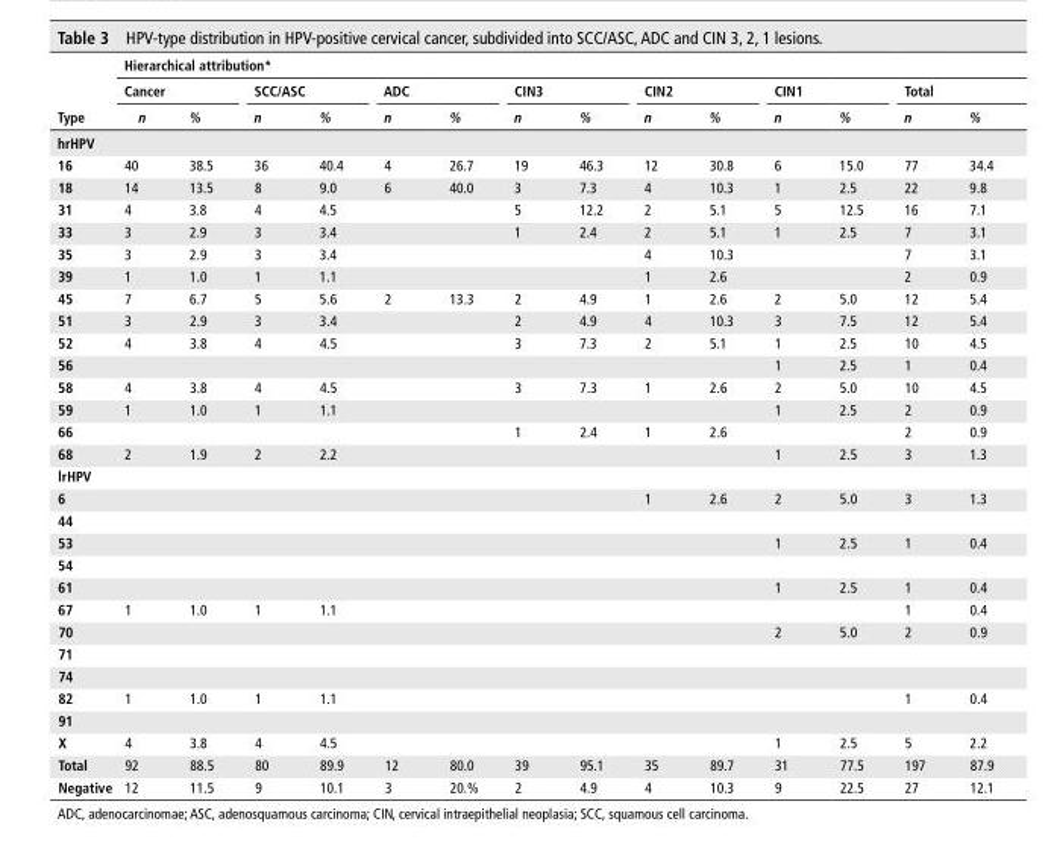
<table><thead><tr><td rowspan="3">Type</td><td colspan="14">hierarchical attribution*</td></tr><tr><td colspan="2">Cancer</td><td colspan="2">sCC/AsC</td><td colspan="2">AdC</td><td colspan="2">CIn3</td><td colspan="2">CIn2</td><td colspan="2">CIn1</td><td colspan="2">Total</td></tr><tr><td>n</td><td>%</td><td>n</td><td>%</td><td>n</td><td>%</td><td>n</td><td>%</td><td>n</td><td>%</td><td>n</td><td>%</td><td>n</td><td>%</td></tr></thead><tbody><tr><td colspan="15">hrhPV</td></tr><tr><td>16</td><td>40</td><td>38.5</td><td>36</td><td>40.4</td><td>4</td><td>26.7</td><td>19</td><td>46.3</td><td>12</td><td>30.8</td><td>6</td><td>15.0</td><td>77</td><td>34.4</td></tr><tr><td>18</td><td>14</td><td>13.5</td><td>8</td><td>9.0</td><td>6</td><td>40.0</td><td>3</td><td>7.3</td><td>4</td><td>10.3</td><td>1</td><td>2.5</td><td>22</td><td>9.8</td></tr><tr><td>31</td><td>4</td><td>3.8</td><td>4</td><td>4.5</td><td></td><td></td><td>5</td><td>12.2</td><td>2</td><td>5.1</td><td>5</td><td>12.5</td><td>16</td><td>7.1</td></tr><tr><td>33</td><td>3</td><td>2.9</td><td>3</td><td>3.4</td><td></td><td></td><td>1</td><td>2.4</td><td>2</td><td>5.1</td><td>1</td><td>2.5</td><td>7</td><td>3.1</td></tr><tr><td>35</td><td>3</td><td>2.9</td><td>3</td><td>3.4</td><td></td><td></td><td></td><td></td><td>4</td><td>10.3</td><td></td><td></td><td>7</td><td>3.1</td></tr><tr><td>39</td><td>1</td><td>1.0</td><td>1</td><td>1.1</td><td></td><td></td><td></td><td></td><td>1</td><td>2.6</td><td></td><td></td><td>2</td><td>0.9</td></tr><tr><td>45</td><td>7</td><td>6.7</td><td>5</td><td>5.6</td><td>2</td><td>13.3</td><td>2</td><td>4.9</td><td>1</td><td>2.6</td><td>2</td><td>5.0</td><td>12</td><td>5.4</td></tr><tr><td>51</td><td>3</td><td>2.9</td><td>3</td><td>3.4</td><td></td><td></td><td>2</td><td>4.9</td><td>4</td><td>10.3</td><td>3</td><td>7.5</td><td>12</td><td>5.4</td></tr><tr><td>52</td><td>4</td><td>3.8</td><td>4</td><td>4.5</td><td></td><td></td><td>3</td><td>7.3</td><td>2</td><td>5.1</td><td>1</td><td>2.5</td><td>10</td><td>4.5</td></tr><tr><td>56</td><td></td><td></td><td></td><td></td><td></td><td></td><td></td><td></td><td></td><td></td><td>1</td><td>2.5</td><td>1</td><td>0.4</td></tr><tr><td>58</td><td>4</td><td>3.8</td><td>4</td><td>4.5</td><td></td><td></td><td>3</td><td>7.3</td><td>1</td><td>2.6</td><td>2</td><td>5.0</td><td>10</td><td>4.5</td></tr><tr><td>59</td><td>1</td><td>1.0</td><td>1</td><td>1.1</td><td></td><td></td><td></td><td></td><td></td><td></td><td>1</td><td>2.5</td><td>2</td><td>0.9</td></tr><tr><td>66</td><td></td><td></td><td></td><td></td><td></td><td></td><td>1</td><td>2.4</td><td>1</td><td>2.6</td><td></td><td></td><td>2</td><td>0.9</td></tr><tr><td>68</td><td>2</td><td>1.9</td><td>2</td><td>2.2</td><td></td><td></td><td></td><td></td><td></td><td></td><td>1</td><td>2.5</td><td>3</td><td>1.3</td></tr><tr><td colspan="15">lrhPV</td></tr><tr><td>6</td><td></td><td></td><td></td><td></td><td></td><td></td><td></td><td></td><td>1</td><td>2.6</td><td>2</td><td>5.0</td><td>3</td><td>1.3</td></tr><tr><td colspan="15">44</td></tr><tr><td>53</td><td></td><td></td><td></td><td></td><td></td><td></td><td></td><td></td><td></td><td></td><td>1</td><td>2.5</td><td>1</td><td>0.4</td></tr><tr><td colspan="15">54</td></tr><tr><td>61</td><td></td><td></td><td></td><td></td><td></td><td></td><td></td><td></td><td></td><td></td><td>1</td><td>2.5</td><td>1</td><td>0.4</td></tr><tr><td>67</td><td>1</td><td>1.0</td><td>1</td><td>1.1</td><td></td><td></td><td></td><td></td><td></td><td></td><td></td><td></td><td>1</td><td>0.4</td></tr><tr><td>70</td><td></td><td></td><td></td><td></td><td></td><td></td><td></td><td></td><td></td><td></td><td>2</td><td>5.0</td><td>2</td><td>0.9</td></tr><tr><td colspan="15">71</td></tr><tr><td colspan="15">74</td></tr><tr><td>82</td><td>1</td><td>1.0</td><td>1</td><td>1.1</td><td></td><td></td><td></td><td></td><td></td><td></td><td></td><td></td><td>1</td><td>0.4</td></tr><tr><td colspan="15">91</td></tr><tr><td>X</td><td>4</td><td>3.8</td><td>4</td><td>4.5</td><td></td><td></td><td></td><td></td><td></td><td></td><td>1</td><td>2.5</td><td>5</td><td>2.2</td></tr><tr><td>Total</td><td>92</td><td>88.5</td><td>80</td><td>89.9</td><td>12</td><td>80.0</td><td>39</td><td>95.1</td><td>35</td><td>89.7</td><td>31</td><td>77.5</td><td>197</td><td>87.9</td></tr><tr><td>negative</td><td>12</td><td>11.5</td><td>9</td><td>10.1</td><td>3</td><td>20.%</td><td>2</td><td>4.9</td><td>4</td><td>10.3</td><td>9</td><td>22.5</td><td>27</td><td>12.1</td></tr></tbody></table>